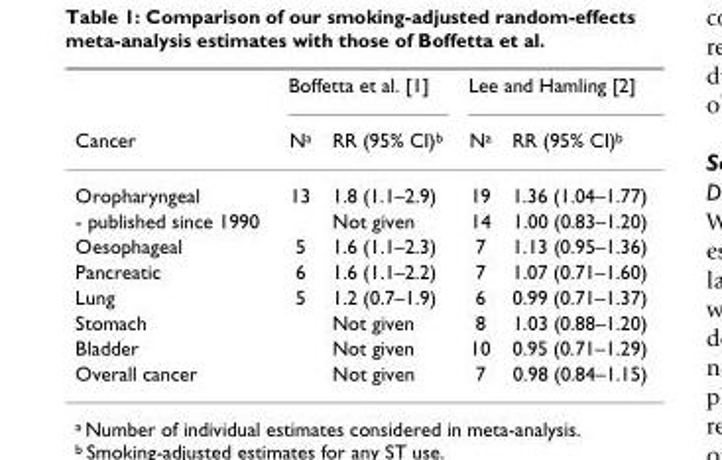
<table><thead><tr><td rowspan="2">Cancer</td><td colspan="2">Boffetta et al. [1]</td><td colspan="2">Lee and Hamling [2]</td></tr><tr><td>N<sup>a</sup></td><td>RR (95% CI)<sup>b</sup></td><td>N<sup>a</sup></td><td>RR (95% CI)<sup>b</sup></td></tr></thead><tbody><tr><td>Oropharyngeal</td><td>13</td><td>1.8 (1.1–2.9)</td><td>19</td><td>1.36 (1.04–1.77)</td></tr><tr><td>- published since 1990</td><td></td><td>Not given</td><td>14</td><td>1.00 (0.83–1.20)</td></tr><tr><td>Oesophageal</td><td>5</td><td>1.6 (1.1–2.3)</td><td>7</td><td>1.13 (0.95–1.36)</td></tr><tr><td>Pancreatic</td><td>6</td><td>1.6 (1.1–2.2)</td><td>7</td><td>1.07 (0.71–1.60)</td></tr><tr><td>Lung</td><td>5</td><td>1.2 (0.7–1.9)</td><td>6</td><td>0.99 (0.71–1.37)</td></tr><tr><td>Stomach</td><td></td><td>Not given</td><td>8</td><td>1.03 (0.88–1.20)</td></tr><tr><td>Bladder</td><td></td><td>Not given</td><td>10</td><td>0.95 (0.71–1.29)</td></tr><tr><td>Overall cancer</td><td></td><td>Not given</td><td>7</td><td>0.98 (0.84–1.15)</td></tr></tbody></table>